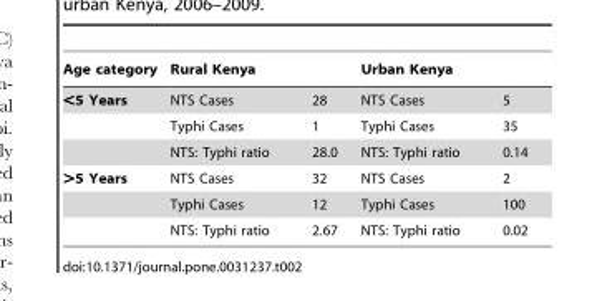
<table><thead><tr><td rowspan="2">Age category &lt;5 Years</td><td colspan="2">Rural Kenya</td><td colspan="2">Urban Kenya</td></tr><tr><td>NTS Cases</td><td>28</td><td>NTS Cases</td><td>5</td></tr></thead><tbody><tr><td></td><td>Typhi Cases</td><td>1</td><td>Typhi Cases</td><td>35</td></tr><tr><td></td><td>NTS: Typhi ratio</td><td>28.0</td><td>NTS: Typhi ratio</td><td>0.14</td></tr><tr><td rowspan="3">&gt;5 Years</td><td>NTS Cases</td><td>32</td><td>NTS Cases</td><td>2</td></tr><tr><td>Typhi Cases</td><td>12</td><td>Typhi Cases</td><td>100</td></tr><tr><td>NTS: Typhi ratio</td><td>2.67</td><td>NTS: Typhi ratio</td><td>0.02</td></tr></tbody></table>